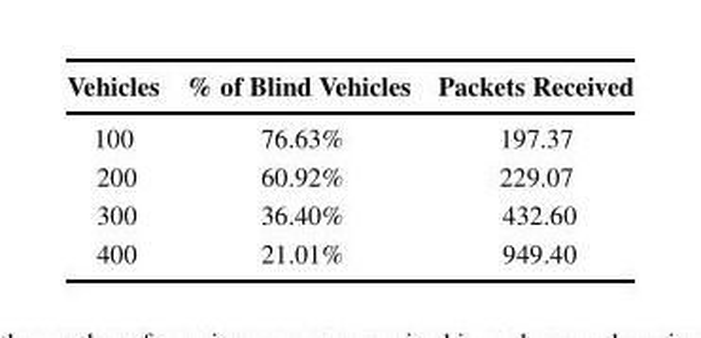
<table><thead><tr><td>Vehicles</td><td>% of Blind Vehicles</td><td>Packets Received</td></tr></thead><tbody><tr><td>100</td><td>76.63%</td><td>197.37</td></tr><tr><td>200</td><td>60.92%</td><td>229.07</td></tr><tr><td>300</td><td>36.40%</td><td>432.60</td></tr><tr><td>400</td><td>21.01%</td><td>949.40</td></tr></tbody></table>